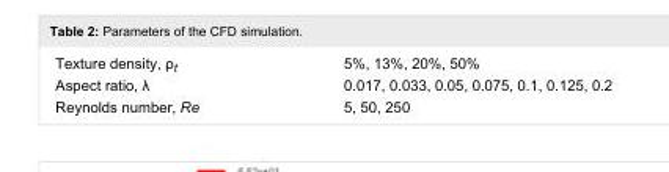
<table><tbody><tr><td>Texture density, ρ<sub>t</sub></td><td>5%, 13%, 20%, 50%</td></tr><tr><td>Aspect ratio, λ</td><td>0.017, 0.033, 0.05, 0.075, 0.1, 0.125, 0.2</td></tr><tr><td>Reynolds number, Re</td><td>5, 50, 250</td></tr></tbody></table>